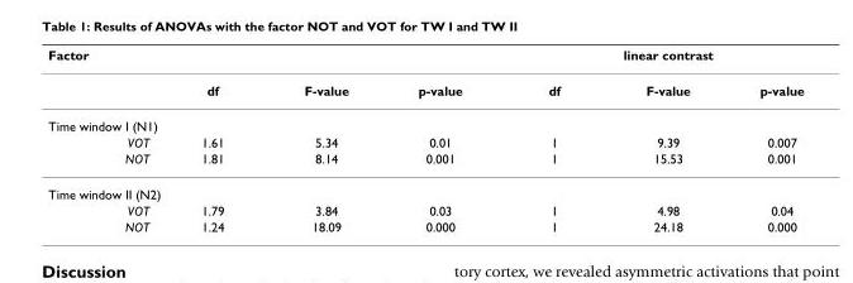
<table><thead><tr><td colspan="4">Factor</td><td colspan="3">linear contrast</td></tr><tr><td></td><td>df</td><td>F-value</td><td>p-value</td><td>df</td><td>F-value</td><td>p-value</td></tr></thead><tbody><tr><td colspan="7">Time window I (N1)</td></tr><tr><td>VOT</td><td>1.61</td><td>5.34</td><td>0.01</td><td>1</td><td>9.39</td><td>0.007</td></tr><tr><td>NOT</td><td>1.81</td><td>8.14</td><td>0.001</td><td>1</td><td>15.53</td><td>0.001</td></tr><tr><td colspan="7">Time window II (N2)</td></tr><tr><td>VOT</td><td>1.79</td><td>3.84</td><td>0.03</td><td>1</td><td>4.98</td><td>0.04</td></tr><tr><td>NOT</td><td>1.24</td><td>18.09</td><td>0.000</td><td>1</td><td>24.18</td><td>0.000</td></tr></tbody></table>